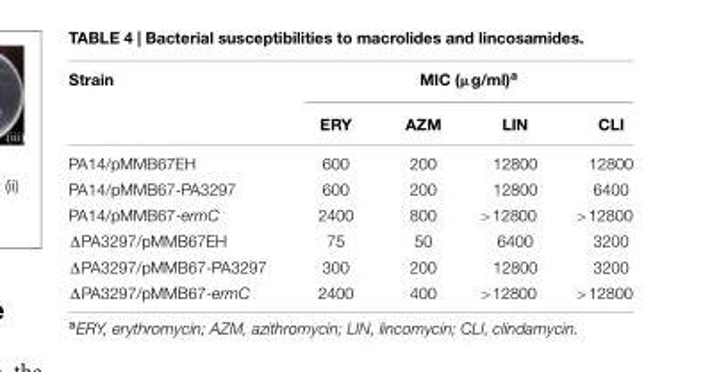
<table><thead><tr><td rowspan="2">Strain</td><td colspan="4">MIC (µg/ml)<sup>a</sup></td></tr><tr><td>ERY</td><td>AZM</td><td>LIN</td><td>CLI</td></tr></thead><tbody><tr><td>PA14/pMMB67EH</td><td>600</td><td>200</td><td>12800</td><td>12800</td></tr><tr><td>PA14/pMMB67-PA3297</td><td>600</td><td>200</td><td>12800</td><td>6400</td></tr><tr><td>PA14/pMMB67-ermC</td><td>2400</td><td>800</td><td>&gt;12800</td><td>&gt;12800</td></tr><tr><td>ΔPA3297/pMMB67EH</td><td>75</td><td>50</td><td>6400</td><td>3200</td></tr><tr><td>ΔPA3297/pMMB67-PA3297</td><td>300</td><td>200</td><td>12800</td><td>3200</td></tr><tr><td>ΔPA3297/pMMB67-ermC</td><td>2400</td><td>400</td><td>&gt;12800</td><td>&gt;12800</td></tr></tbody></table>